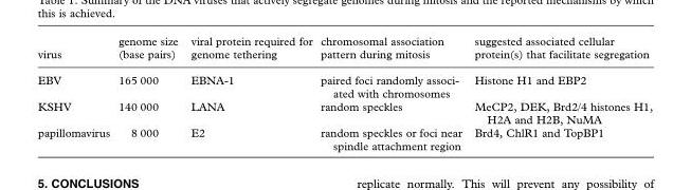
<table><thead><tr><td>virus</td><td>genome size (base pairs)</td><td>viral protein required for genome tethering</td><td>chromosomal association pattern during mitosis</td><td>suggested associated cellular protein(s) that facilitate segregation</td></tr></thead><tbody><tr><td>EBV</td><td>165 000</td><td>EBNA-1</td><td>paired foci randomly associ- ated with chromosomes</td><td>Histone H1 and EBP2</td></tr><tr><td>KSHV</td><td>140 000</td><td>LANA</td><td>random speckles</td><td>MeCP2, DEK, Brd2/4 histones H1, H2A and H2B, NuMA</td></tr><tr><td>papillomavirus</td><td>8 000</td><td>E2</td><td>random speckles or foci near spindle attachment region</td><td>Brd4, ChlR1 and TopBP1</td></tr></tbody></table>